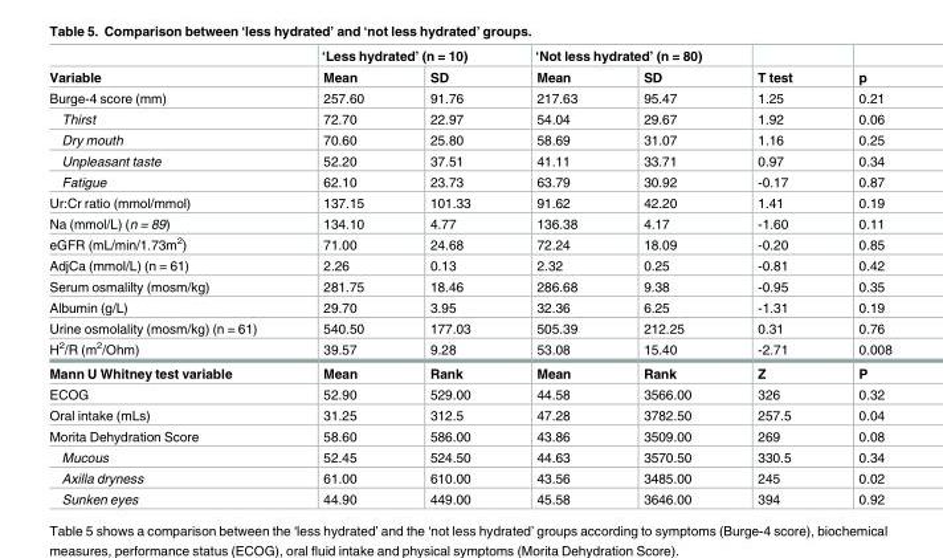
<table><thead><tr><td rowspan="2">Variable</td><td colspan="2">‘Less hydrated’ (n = 10)</td><td colspan="2">‘Not less hydrated’ (n = 80)</td><td rowspan="2">T test</td><td rowspan="2">p</td></tr><tr><td>Mean</td><td>SD</td><td>Mean</td><td>SD</td></tr></thead><tbody><tr><td>Burge-4 score (mm)</td><td>257.60</td><td>91.76</td><td>217.63</td><td>95.47</td><td>1.25</td><td>0.21</td></tr><tr><td>Thirst</td><td>72.70</td><td>22.97</td><td>54.04</td><td>29.67</td><td>1.92</td><td>0.06</td></tr><tr><td>Dry mouth</td><td>70.60</td><td>25.80</td><td>58.69</td><td>31.07</td><td>1.16</td><td>0.25</td></tr><tr><td>Unpleasant taste</td><td>52.20</td><td>37.51</td><td>41.11</td><td>33.71</td><td>0.97</td><td>0.34</td></tr><tr><td>Fatigue</td><td>62.10</td><td>23.73</td><td>63.79</td><td>30.92</td><td>-0.17</td><td>0.87</td></tr><tr><td>Ur:Cr ratio (mmol/mmol)</td><td>137.15</td><td>101.33</td><td>91.62</td><td>42.20</td><td>1.41</td><td>0.19</td></tr><tr><td>Na (mmol/L) (n = 89)</td><td>134.10</td><td>4.77</td><td>136.38</td><td>4.17</td><td>-1.60</td><td>0.11</td></tr><tr><td>eGFR (mL/min/1.73m<sup>2</sup>)</td><td>71.00</td><td>24.68</td><td>72.24</td><td>18.09</td><td>-0.20</td><td>0.85</td></tr><tr><td>AdjCa (mmol/L) (n = 61)</td><td>2.26</td><td>0.13</td><td>2.32</td><td>0.25</td><td>-0.81</td><td>0.42</td></tr><tr><td>Serum osmalilty (mosm/kg)</td><td>281.75</td><td>18.46</td><td>286.68</td><td>9.38</td><td>-0.95</td><td>0.35</td></tr><tr><td>Albumin (g/L)</td><td>29.70</td><td>3.95</td><td>32.36</td><td>6.25</td><td>-1.31</td><td>0.19</td></tr><tr><td>Urine osmolality (mosm/kg) (n = 61)</td><td>540.50</td><td>177.03</td><td>505.39</td><td>212.25</td><td>0.31</td><td>0.76</td></tr><tr><td>H<sup>2</sup>/R (m<sup>2</sup>/Ohm)</td><td>39.57</td><td>9.28</td><td>53.08</td><td>15.40</td><td>-2.71</td><td>0.008</td></tr><tr><td>Mann U Whitney test variable</td><td>Mean</td><td>Rank</td><td>Mean</td><td>Rank</td><td>Z</td><td>P</td></tr><tr><td>ECOG</td><td>52.90</td><td>529.00</td><td>44.58</td><td>3566.00</td><td>326</td><td>0.32</td></tr><tr><td>Oral intake (mLs)</td><td>31.25</td><td>312.5</td><td>47.28</td><td>3782.50</td><td>257.5</td><td>0.04</td></tr><tr><td>Morita Dehydration Score</td><td>58.60</td><td>586.00</td><td>43.86</td><td>3509.00</td><td>269</td><td>0.08</td></tr><tr><td>Mucous</td><td>52.45</td><td>524.50</td><td>44.63</td><td>3570.50</td><td>330.5</td><td>0.34</td></tr><tr><td>Axilla dryness</td><td>61.00</td><td>610.00</td><td>43.56</td><td>3485.00</td><td>245</td><td>0.02</td></tr><tr><td>Sunken eyes</td><td>44.90</td><td>449.00</td><td>45.58</td><td>3646.00</td><td>394</td><td>0.92</td></tr></tbody></table>